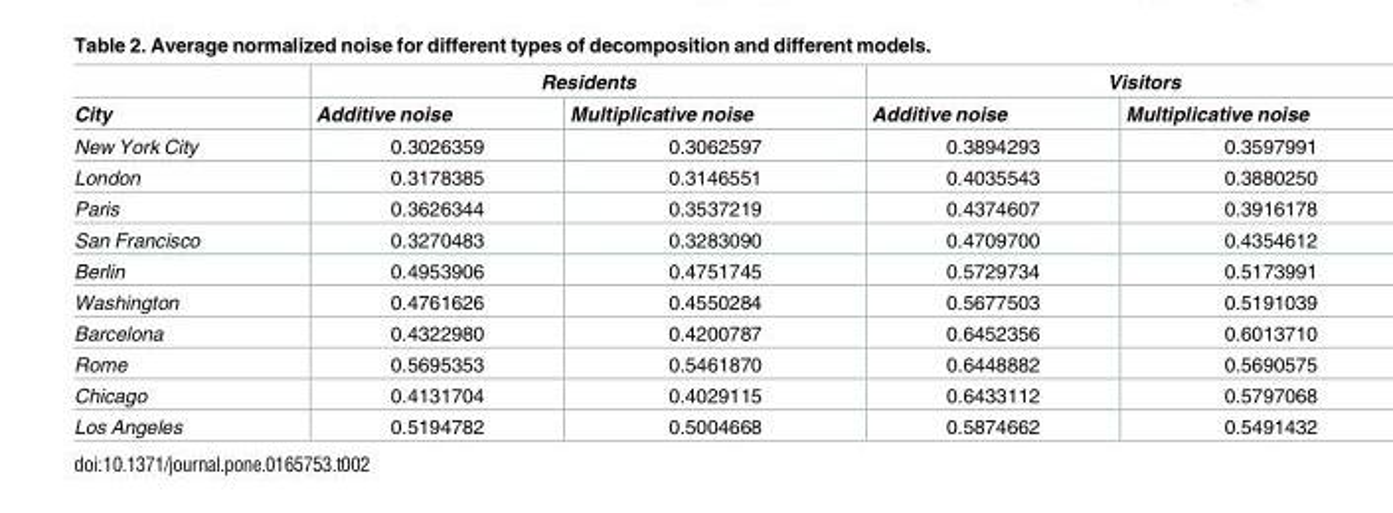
<table><thead><tr><td rowspan="2">City</td><td colspan="2">Residents</td><td colspan="2">Visitors</td></tr><tr><td>Additive noise</td><td>Multiplicative noise</td><td>Additive noise</td><td>Multiplicative noise</td></tr></thead><tbody><tr><td>New York City</td><td>0.3026359</td><td>0.3062597</td><td>0.3894293</td><td>0.3597991</td></tr><tr><td>London</td><td>0.3178385</td><td>0.3146551</td><td>0.4035543</td><td>0.3880250</td></tr><tr><td>Paris</td><td>0.3626344</td><td>0.3537219</td><td>0.4374607</td><td>0.3916178</td></tr><tr><td>San Francisco</td><td>0.3270483</td><td>0.3283090</td><td>0.4709700</td><td>0.4354612</td></tr><tr><td>Berlin</td><td>0.4953906</td><td>0.4751745</td><td>0.5729734</td><td>0.5173991</td></tr><tr><td>Washington</td><td>0.4761626</td><td>0.4550284</td><td>0.5677503</td><td>0.5191039</td></tr><tr><td>Barcelona</td><td>0.4322980</td><td>0.4200787</td><td>0.6452356</td><td>0.6013710</td></tr><tr><td>Rome</td><td>0.5695353</td><td>0.5461870</td><td>0.6448882</td><td>0.5690575</td></tr><tr><td>Chicago</td><td>0.4131704</td><td>0.4029115</td><td>0.6433112</td><td>0.5797068</td></tr><tr><td>Los Angeles</td><td>0.5194782</td><td>0.5004668</td><td>0.5874662</td><td>0.5491432</td></tr></tbody></table>